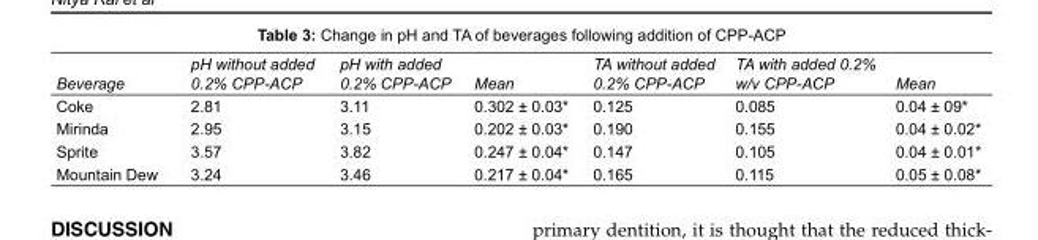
<table><tbody><tr><td>Beverage</td><td>pH without added 0.2% CPP-ACP</td><td>pH with added 0.2% CPP-ACP</td><td>Mean</td><td>TA without added 0.2% CPP-ACP</td><td>TA with added 0.2% w/v CPP-ACP</td><td>Mean</td></tr><tr><td>Coke</td><td>2.81</td><td>3.11</td><td>0.302 ± 0.03*</td><td>0.125</td><td>0.085</td><td>0.04 ± 09*</td></tr><tr><td>Mirinda</td><td>2.95</td><td>3.15</td><td>0.202 ± 0.03*</td><td>0.190</td><td>0.155</td><td>0.04 ± 0.02*</td></tr><tr><td>Sprite</td><td>3.57</td><td>3.82</td><td>0.247 ± 0.04*</td><td>0.147</td><td>0.105</td><td>0.04 ± 0.01*</td></tr><tr><td>Mountain Dew</td><td>3.24</td><td>3.46</td><td>0.217 ± 0.04*</td><td>0.165</td><td>0.115</td><td>0.05 ± 0.08*</td></tr></tbody></table>